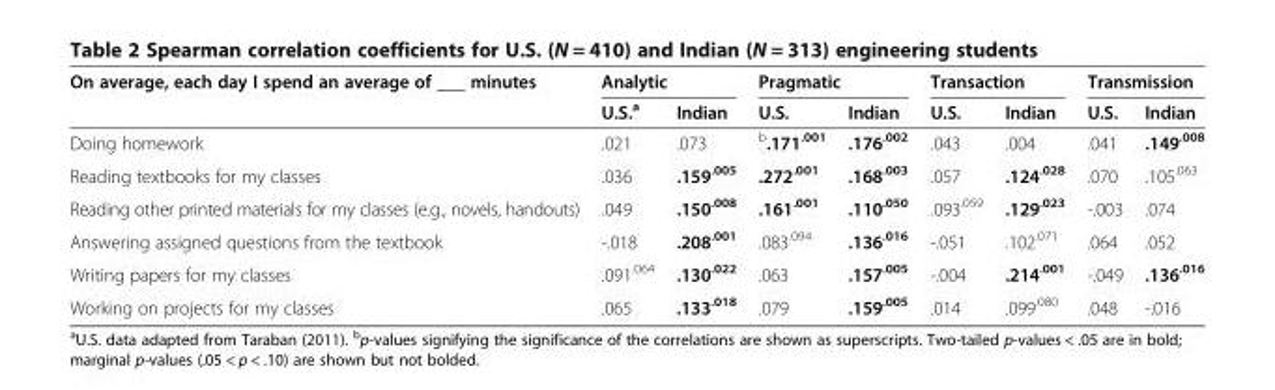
<table><thead><tr><td rowspan="2">On average, each day I spend an average of ___ minutes</td><td colspan="2">Analytic</td><td colspan="2">Pragmatic</td><td colspan="2">Transaction</td><td colspan="2">Transmission</td></tr><tr><td>U.S.<sup>a</sup></td><td>Indian</td><td>U.S.</td><td>Indian</td><td>U.S.</td><td>Indian</td><td>U.S.</td><td>Indian</td></tr></thead><tbody><tr><td>Doing homework</td><td>.021</td><td>.073</td><td><sup>b</sup>.171<sup>.001</sup></td><td>.176<sup>.002</sup></td><td>.043</td><td>.004</td><td>.041</td><td>.149<sup>.008</sup></td></tr><tr><td>Reading textbooks for my classes</td><td>.036</td><td>.159<sup>.005</sup></td><td>.272<sup>.001</sup></td><td>.168<sup>.003</sup></td><td>.057</td><td>.124<sup>.028</sup></td><td>.070</td><td>.105<sup>.063</sup></td></tr><tr><td>Reading other printed materials for my classes (e.g., novels, handouts)</td><td>.049</td><td>.150<sup>.008</sup></td><td>.161<sup>.001</sup></td><td>.110<sup>.050</sup></td><td>.093<sup>.059</sup></td><td>.129<sup>.023</sup></td><td>-.003</td><td>.074</td></tr><tr><td>Answering assigned questions from the textbook</td><td>-.018</td><td>.208<sup>.001</sup></td><td>.083<sup>.094</sup></td><td>.136<sup>.016</sup></td><td>-.051</td><td>.102<sup>.071</sup></td><td>.064</td><td>.052</td></tr><tr><td>Writing papers for my classes</td><td>.091<sup>.064</sup></td><td>.130<sup>.022</sup></td><td>.063</td><td>.157<sup>.005</sup></td><td>-.004</td><td>.214<sup>.001</sup></td><td>-.049</td><td>.136<sup>.016</sup></td></tr><tr><td>Working on projects for my classes</td><td>.065</td><td>.133<sup>.018</sup></td><td>.079</td><td>.159<sup>.005</sup></td><td>.014</td><td>.099<sup>.080</sup></td><td>.048</td><td>-.016</td></tr></tbody></table>